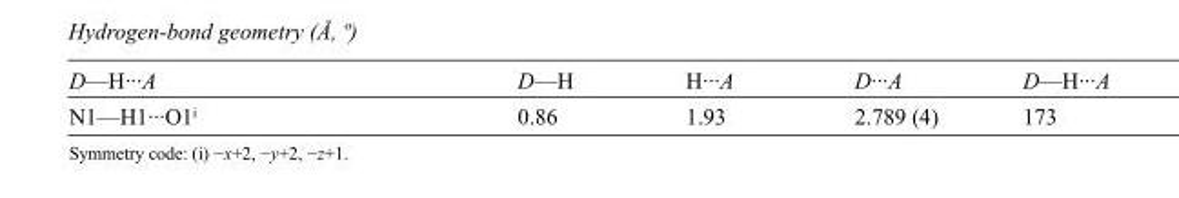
<table><tbody><tr><td>D—H···A</td><td>D—H</td><td>H···A</td><td>D···A</td><td>D—H···A</td></tr><tr><td>N1—H1···O1<sup>i</sup></td><td>0.86</td><td>1.93</td><td>2.789 (4)</td><td>173</td></tr></tbody></table>